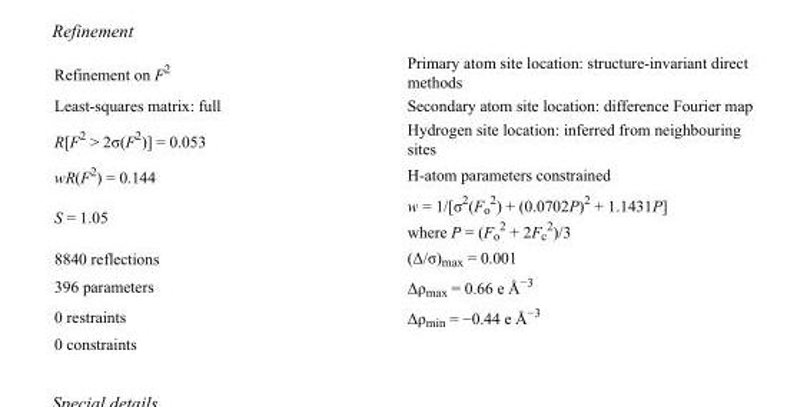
<table><tbody><tr><td>Refinement on F<sup>2</sup></td><td>Primary atom site location: structure-invariant direct methods</td></tr><tr><td>Least-squares matrix: full</td><td>Secondary atom site location: difference Fourier map</td></tr><tr><td>R[F<sup>2</sup> &gt; 2σ(F<sup>2</sup>)] = 0.053</td><td>Hydrogen site location: inferred from neighbouring sites</td></tr><tr><td>wR(F<sup>2</sup>) = 0.144</td><td>H-atom parameters constrained</td></tr><tr><td>S = 1.05</td><td>w = 1/[σ<sup>2</sup>(F<sub>o</sub> <sup>2</sup>) + (0.0702P)<sup>2</sup> + 1.1431P] where P = (F<sub>o</sub> <sup>2</sup> + 2F<sub>c</sub> <sup>2</sup>)/3</td></tr><tr><td>8840 reflections</td><td>(Δ/σ)<sub>max</sub> = 0.001</td></tr><tr><td>396 parameters</td><td>Δρ<sub>max</sub> = 0.66 e Å<sup>−3</sup></td></tr><tr><td>0 restraints</td><td>Δρ<sub>min</sub> = −0.44 e Å<sup>−3</sup></td></tr><tr><td>0 constraints</td><td></td></tr></tbody></table>